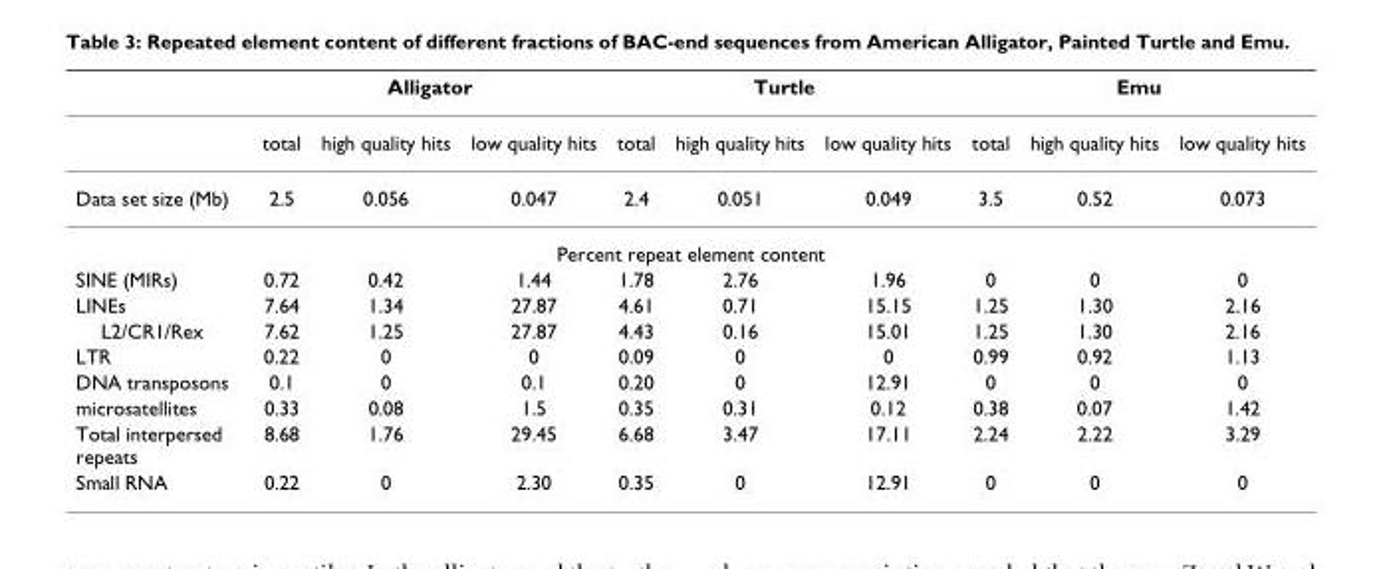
<table><thead><tr><td rowspan="2"></td><td colspan="3">Alligator</td><td colspan="3">Turtle</td><td colspan="3">Emu</td></tr><tr><td>total</td><td>high quality hits</td><td>low quality hits</td><td>total</td><td>high quality hits</td><td>low quality hits</td><td>total</td><td>high quality hits</td><td>low quality hits</td></tr></thead><tbody><tr><td>Data set size (Mb)</td><td>2.5</td><td>0.056</td><td>0.047</td><td>2.4</td><td>0.051</td><td>0.049</td><td>3.5</td><td>0.52</td><td>0.073</td></tr><tr><td colspan="10">Percent repeat element content</td></tr><tr><td>SINE (MIRs)</td><td>0.72</td><td>0.42</td><td>1.44</td><td>1.78</td><td>2.76</td><td>1.96</td><td>0</td><td>0</td><td>0</td></tr><tr><td>LINEs</td><td>7.64</td><td>1.34</td><td>27.87</td><td>4.61</td><td>0.71</td><td>15.15</td><td>1.25</td><td>1.30</td><td>2.16</td></tr><tr><td>L2/CR1/Rex</td><td>7.62</td><td>1.25</td><td>27.87</td><td>4.43</td><td>0.16</td><td>15.01</td><td>1.25</td><td>1.30</td><td>2.16</td></tr><tr><td>LTR</td><td>0.22</td><td>0</td><td>0</td><td>0.09</td><td>0</td><td>0</td><td>0.99</td><td>0.92</td><td>1.13</td></tr><tr><td>DNA transposons</td><td>0.1</td><td>0</td><td>0.1</td><td>0.20</td><td>0</td><td>12.91</td><td>0</td><td>0</td><td>0</td></tr><tr><td>microsatellites</td><td>0.33</td><td>0.08</td><td>1.5</td><td>0.35</td><td>0.31</td><td>0.12</td><td>0.38</td><td>0.07</td><td>1.42</td></tr><tr><td>Total interpersed repeats</td><td>8.68</td><td>1.76</td><td>29.45</td><td>6.68</td><td>3.47</td><td>17.11</td><td>2.24</td><td>2.22</td><td>3.29</td></tr><tr><td>Small RNA</td><td>0.22</td><td>0</td><td>2.30</td><td>0.35</td><td>0</td><td>12.91</td><td>0</td><td>0</td><td>0</td></tr></tbody></table>